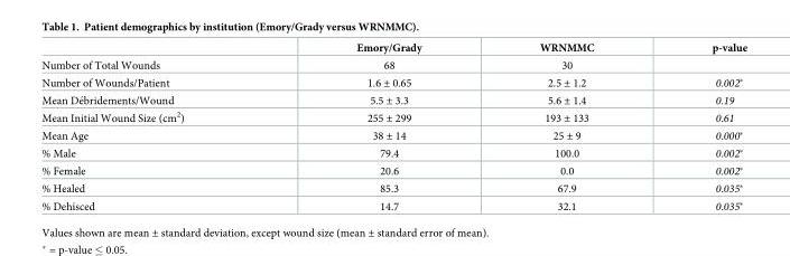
<table><thead><tr><td></td><td>Emory/Grady</td><td>WRNMMC</td><td>p-value</td></tr></thead><tbody><tr><td>Number of Total Wounds</td><td>68</td><td>30</td><td></td></tr><tr><td>Number of Wounds/Patient</td><td>1.6 ± 0.65</td><td>2.5 ± 1.2</td><td>0.002*</td></tr><tr><td>Mean De´bridements/Wound</td><td>5.5 ± 3.3</td><td>5.6 ± 1.4</td><td>0.19</td></tr><tr><td>Mean Initial Wound Size (cm<sup>2</sup>)</td><td>255 ± 299</td><td>193 ± 133</td><td>0.61</td></tr><tr><td>Mean Age</td><td>38 ± 14</td><td>25 ± 9</td><td>0.000*</td></tr><tr><td>% Male</td><td>79.4</td><td>100.0</td><td>0.002*</td></tr><tr><td>% Female</td><td>20.6</td><td>0.0</td><td>0.002*</td></tr><tr><td>% Healed</td><td>85.3</td><td>67.9</td><td>0.035*</td></tr><tr><td>% Dehisced</td><td>14.7</td><td>32.1</td><td>0.035*</td></tr></tbody></table>